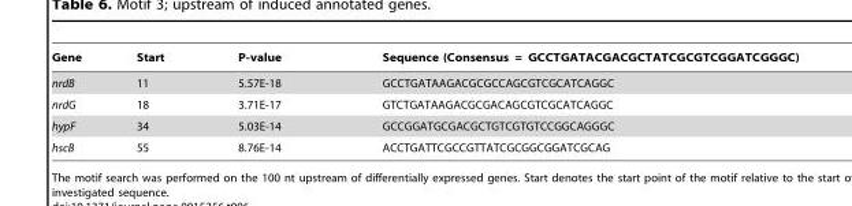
<table><thead><tr><td>Gene</td><td>Start</td><td>P-value</td><td>Sequence (Consensus = GCCTGATACGACGCTATCGCGTCGGATCGGGC)</td></tr></thead><tbody><tr><td>nrdB</td><td>11</td><td>5.57E-18</td><td>GCCTGATAAGACGCGCCAGCGTCGCATCAGGC</td></tr><tr><td>nrdG</td><td>18</td><td>3.71E-17</td><td>GTCTGATAAGACGCGACAGCGTCGCATCAGGC</td></tr><tr><td>hypF</td><td>34</td><td>5.03E-14</td><td>GCCGGATGCGACGCTGTCGTGTCCGGCAGGGC</td></tr><tr><td>hscB</td><td>55</td><td>8.76E-14</td><td>ACCTGATTCGCCGTTATCGCGGCGGATCGCAG</td></tr></tbody></table>